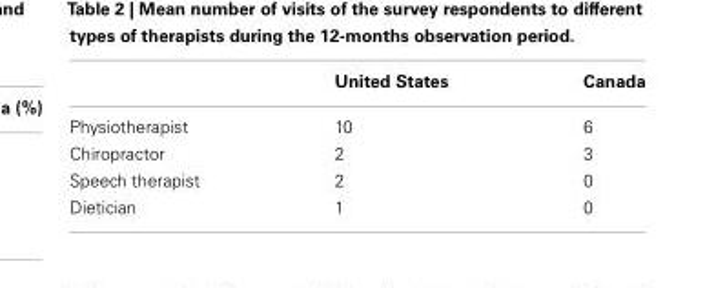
<table><thead><tr><td></td><td>United States</td><td>Canada</td></tr></thead><tbody><tr><td>Physiotherapist</td><td>10</td><td>6</td></tr><tr><td>Chiropractor</td><td>2</td><td>3</td></tr><tr><td>Speech therapist</td><td>2</td><td>0</td></tr><tr><td>Dietician</td><td>1</td><td>0</td></tr></tbody></table>